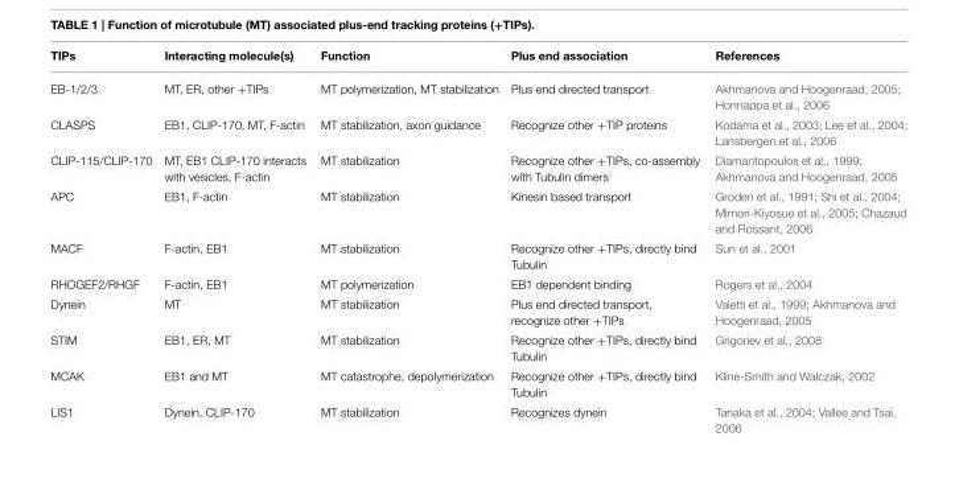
<table><thead><tr><td>TIPs</td><td>Interacting molecule(s)</td><td>Function</td><td>Plus end association</td><td>References</td></tr></thead><tbody><tr><td>EB-1/2/3</td><td>MT, ER, other +TIPs</td><td>MT polymerization, MT stabilization</td><td>Plus end directed transport</td><td>Akhmanova and Hoogenraad, 2005; Honnappa et al., 2006</td></tr><tr><td>CLASPS</td><td>EB1, CLIP-170, MT, F-actin</td><td>MT stabilization, axon guidance</td><td>Recognize other +TIP proteins</td><td>Kodama et al., 2003; Lee et al., 2004; Lansbergen et al., 2006</td></tr><tr><td>CLIP-115/CLIP-170</td><td>MT, EB1 CLIP-170 interacts with vesicles, F-actin</td><td>MT stabilization</td><td>Recognize other +TIPs, co-assembly with Tubulin dimers</td><td>Diamantopoulos et al., 1999; Akhmanova and Hoogenraad, 2005</td></tr><tr><td>APC</td><td>EB1, F-actin</td><td>MT stabilization</td><td>Kinesin based transport</td><td>Groden et al., 1991; Shi et al., 2004; Mimori-Kiyosue et al., 2005; Chazaud and Rossant, 2006</td></tr><tr><td>MACF</td><td>F-actin, EB1</td><td>MT stabilization</td><td>Recognize other +TIPs, directly bind Tubulin</td><td>Sun et al., 2001</td></tr><tr><td>RHOGEF2/RHGF</td><td>F-actin, EB1</td><td>MT polymerization</td><td>EB1 dependent binding</td><td>Rogers et al., 2004</td></tr><tr><td>Dynein</td><td>MT</td><td>MT stabilization</td><td>Plus end directed transport, recognize other +TIPs</td><td>Valetti et al., 1999; Akhmanova and Hoogenraad, 2005</td></tr><tr><td>STIM</td><td>EB1, ER, MT</td><td>MT stabilization</td><td>Recognize other +TIPs, directly bind Tubulin</td><td>Grigoriev et al., 2008</td></tr><tr><td>MCAK</td><td>EB1 and MT</td><td>MT catastrophe, depolymerization</td><td>Recognize other +TIPs, directly bind Tubulin</td><td>Kline-Smith and Walczak, 2002</td></tr><tr><td>LIS1</td><td>Dynein, CLIP-170</td><td>MT stabilization</td><td>Recognizes dynein</td><td>Tanaka et al., 2004; Vallee and Tsai, 2006</td></tr></tbody></table>